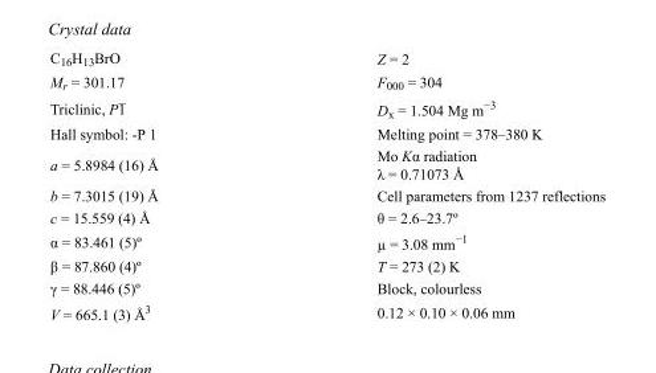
<table><tbody><tr><td>C<sub>16</sub>H<sub>13</sub>BrO</td><td>Z = 2</td></tr><tr><td>M<sub>r</sub> = 301.17</td><td>F000 = 304</td></tr><tr><td>Triclinic, P1</td><td>D<sub>x</sub> = 1.504 Mg m<sup>−3</sup></td></tr><tr><td>Hall symbol: -P 1</td><td>Melting point = 378–380 K</td></tr><tr><td>a = 5.8984 (16) Å</td><td>Mo Kα radiation λ = 0.71073 Å</td></tr><tr><td>b = 7.3015 (19) Å</td><td>Cell parameters from 1237 reflections</td></tr><tr><td>c = 15.559 (4) Å</td><td>θ = 2.6–23.7º</td></tr><tr><td>α = 83.461 (5)º</td><td>µ = 3.08 mm<sup>−1</sup></td></tr><tr><td>β = 87.860 (4)º</td><td>T = 273 (2) K</td></tr><tr><td>γ = 88.446 (5)º</td><td>Block, colourless</td></tr><tr><td>V = 665.1 (3) Å<sup>3</sup></td><td>0.12 × 0.10 × 0.06 mm</td></tr></tbody></table>